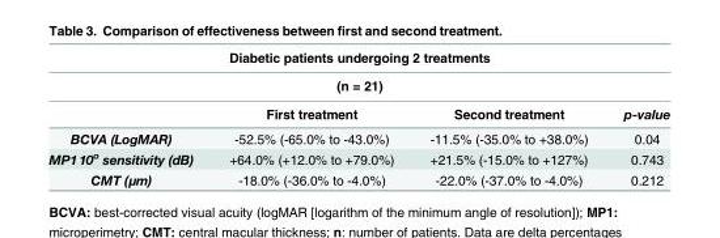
<table><thead><tr><td rowspan="2" colspan="4">Diabetic patients undergoing 2 treatments (n = 21)</td></tr><tr></tr><tr><td></td><td>First treatment</td><td>Second treatment</td><td>p-value</td></tr></thead><tbody><tr><td>BCVA (LogMAR)</td><td>-52.5% (-65.0% to -43.0%)</td><td>-11.5% (-35.0% to +38.0%)</td><td>0.04</td></tr><tr><td>MP1 10<sup>o</sup> sensitivity (dB)</td><td>+64.0% (+12.0% to +79.0%)</td><td>+21.5% (-15.0% to +127%)</td><td>0.743</td></tr><tr><td>CMT (μm)</td><td>-18.0% (-36.0% to -4.0%)</td><td>-22.0% (-37.0% to -4.0%)</td><td>0.212</td></tr></tbody></table>